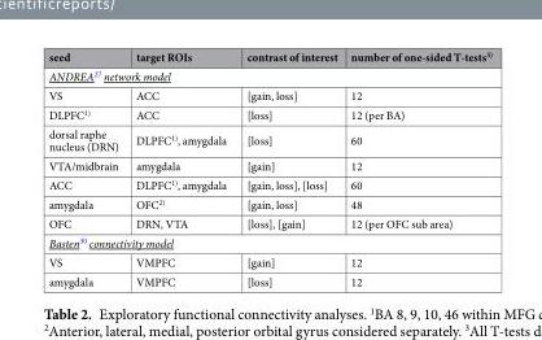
<table><thead><tr><td>seed</td><td>target ROIs</td><td>contrast of interest</td><td>number of one-sided T-tests<sup>3)</sup></td></tr></thead><tbody><tr><td colspan="4">ANDREA<sup>27</sup> network model</td></tr><tr><td>VS</td><td>ACC</td><td>[gain, loss]</td><td>12</td></tr><tr><td>DLPFC<sup>1)</sup></td><td>ACC</td><td>[loss]</td><td>12 (per BA)</td></tr><tr><td>dorsal raphe nucleus (DRN)</td><td>DLPFC<sup>1)</sup>, amygdala</td><td>[loss]</td><td>60</td></tr><tr><td>VTA/midbrain</td><td>amygdala</td><td>[gain]</td><td>12</td></tr><tr><td>ACC</td><td>DLPFC<sup>1)</sup>, amygdala</td><td>[gain, loss], [loss]</td><td>60</td></tr><tr><td>amygdala</td><td>OFC<sup>2)</sup></td><td>[gain, loss]</td><td>48</td></tr><tr><td>OFC</td><td>DRN, VTA</td><td>[loss], [gain]</td><td>12 (per OFC sub area)</td></tr><tr><td colspan="4">Basten<sup>30</sup> connectivity model</td></tr><tr><td>VS</td><td>VMPFC</td><td>[gain]</td><td>12</td></tr><tr><td>amygdala</td><td>VMPFC</td><td>[loss]</td><td>12</td></tr></tbody></table>